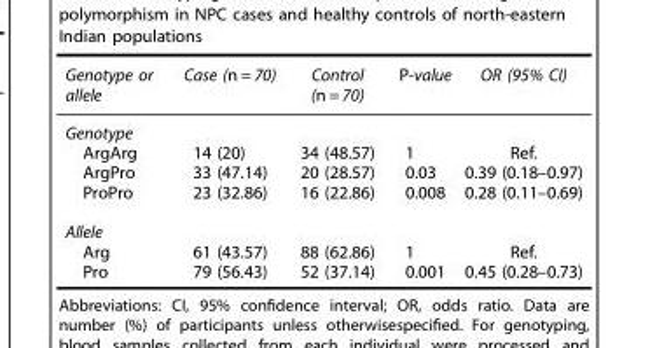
<table><thead><tr><td>Genotype or allele</td><td>Case (n = 70)</td><td>Control (n = 70)</td><td>P-value</td><td>OR (95% CI)</td></tr></thead><tbody><tr><td colspan="5">Genotype</td></tr><tr><td>ArgArg</td><td>14 (20)</td><td>34 (48.57)</td><td>1</td><td>Ref.</td></tr><tr><td>ArgPro</td><td>33 (47.14)</td><td>20 (28.57)</td><td>0.03</td><td>0.39 (0.18–0.97)</td></tr><tr><td>ProPro</td><td>23 (32.86)</td><td>16 (22.86)</td><td>0.008</td><td>0.28 (0.11–0.69)</td></tr><tr><td colspan="5">Allele</td></tr><tr><td>Arg</td><td>61 (43.57)</td><td>88 (62.86)</td><td>1</td><td>Ref.</td></tr><tr><td>Pro</td><td>79 (56.43)</td><td>52 (37.14)</td><td>0.001</td><td>0.45 (0.28–0.73)</td></tr></tbody></table>